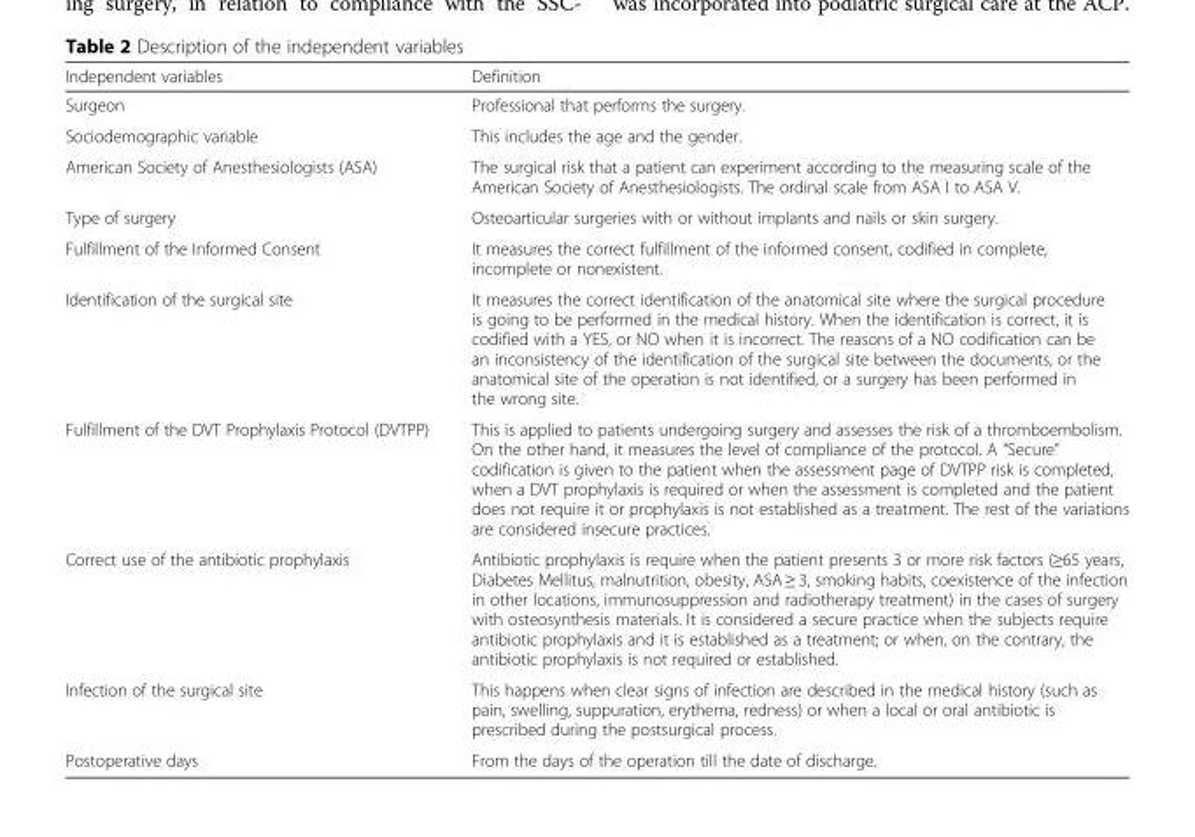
<table><thead><tr><td>Independent variables</td><td>Definition</td></tr></thead><tbody><tr><td>Surgeon</td><td>Professional that performs the surgery.</td></tr><tr><td>Sociodemographic variable</td><td>This includes the age and the gender.</td></tr><tr><td>American Society of Anesthesiologists (ASA)</td><td>The surgical risk that a patient can experiment according to the measuring scale of the American Society of Anesthesiologists. The ordinal scale from ASA I to ASA V.</td></tr><tr><td>Type of surgery</td><td>Osteoarticular surgeries with or without implants and nails or skin surgery.</td></tr><tr><td>Fulfillment of the Informed Consent</td><td>It measures the correct fulfillment of the informed consent, codified in complete, incomplete or nonexistent.</td></tr><tr><td>Identification of the surgical site</td><td>It measures the correct identification of the anatomical site where the surgical procedure is going to be performed in the medical history. When the identification is correct, it is codified with a YES, or NO when it is incorrect. The reasons of a NO codification can be an inconsistency of the identification of the surgical site between the documents, or the anatomical site of the operation is not identified, or a surgery has been performed in the wrong site.</td></tr><tr><td>Fulfillment of the DVT Prophylaxis Protocol (DVTPP)</td><td>This is applied to patients undergoing surgery and assesses the risk of a thromboembolism. On the other hand, it measures the level of compliance of the protocol. A “Secure” codification is given to the patient when the assessment page of DVTPP risk is completed, when a DVT prophylaxis is required or when the assessment is completed and the patient does not require it or prophylaxis is not established as a treatment. The rest of the variations are considered insecure practices.</td></tr><tr><td>Correct use of the antibiotic prophylaxis</td><td>Antibiotic prophylaxis is require when the patient presents 3 or more risk factors (≥65 years, Diabetes Mellitus, malnutrition, obesity, ASA ≥ 3, smoking habits, coexistence of the infection in other locations, immunosuppression and radiotherapy treatment) in the cases of surgery with osteosynthesis materials. It is considered a secure practice when the subjects require antibiotic prophylaxis and it is established as a treatment; or when, on the contrary, the antibiotic prophylaxis is not required or established.</td></tr><tr><td>Infection of the surgical site</td><td>This happens when clear signs of infection are described in the medical history (such as pain, swelling, suppuration, erythema, redness) or when a local or oral antibiotic is prescribed during the postsurgical process.</td></tr><tr><td>Postoperative days</td><td>From the days of the operation till the date of discharge.</td></tr></tbody></table>